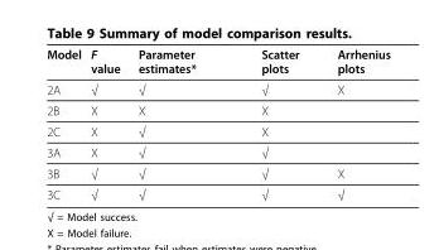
<table><thead><tr><td>Model</td><td>F value</td><td>Parameter estimates*</td><td>Scatter plots</td><td>Arrhenius plots</td></tr></thead><tbody><tr><td>2A</td><td>√</td><td>√</td><td>√</td><td>X</td></tr><tr><td>2B</td><td>X</td><td>X</td><td>X</td><td></td></tr><tr><td>2C</td><td>X</td><td>√</td><td>X</td><td></td></tr><tr><td>3A</td><td>X</td><td>√</td><td>√</td><td></td></tr><tr><td>3B</td><td>√</td><td>√</td><td>√</td><td>X</td></tr><tr><td>3C</td><td>√</td><td>√</td><td>√</td><td>√</td></tr></tbody></table>